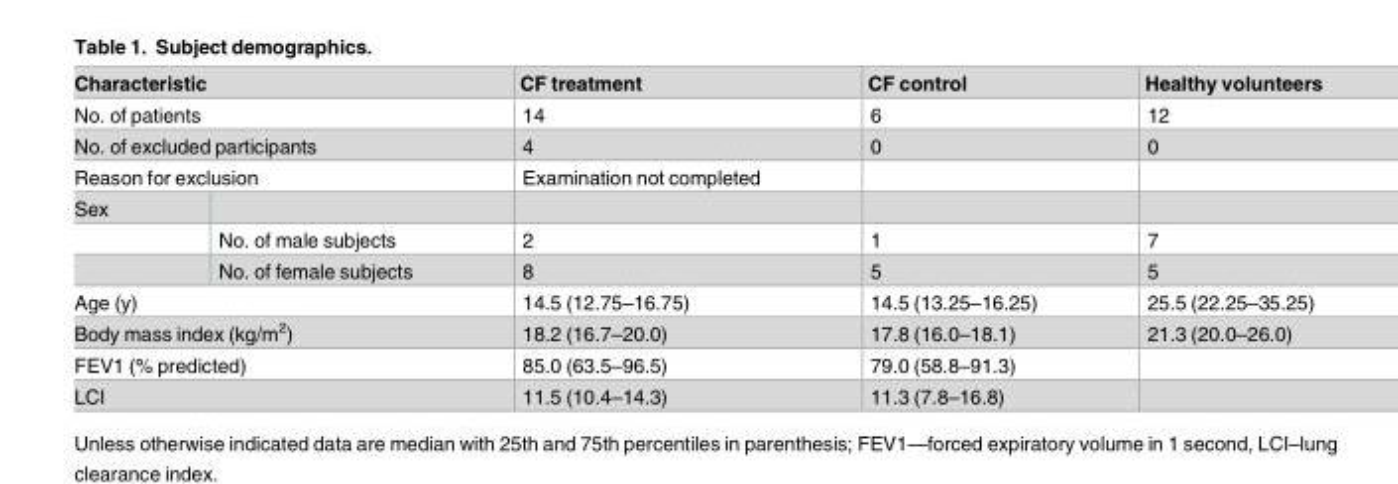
<table><thead><tr><td colspan="2">Characteristic</td><td>CF treatment</td><td>CF control</td><td>Healthy volunteers</td></tr></thead><tbody><tr><td colspan="2">No. of patients</td><td>14</td><td>6</td><td>12</td></tr><tr><td colspan="2">No. of excluded participants</td><td>4</td><td>0</td><td>0</td></tr><tr><td colspan="2">Reason for exclusion</td><td>Examination not completed</td><td></td><td></td></tr><tr><td colspan="5">Sex</td></tr><tr><td></td><td>No. of male subjects</td><td>2</td><td>1</td><td>7</td></tr><tr><td></td><td>No. of female subjects</td><td>8</td><td>5</td><td>5</td></tr><tr><td colspan="2">Age (y)</td><td>14.5 (12.75–16.75)</td><td>14.5 (13.25–16.25)</td><td>25.5 (22.25–35.25)</td></tr><tr><td colspan="2">Body mass index (kg/m<sup>2</sup>)</td><td>18.2 (16.7–20.0)</td><td>17.8 (16.0–18.1)</td><td>21.3 (20.0–26.0)</td></tr><tr><td colspan="2">FEV1 (% predicted)</td><td>85.0 (63.5–96.5)</td><td>79.0 (58.8–91.3)</td><td></td></tr><tr><td colspan="2">LCI</td><td>11.5 (10.4–14.3)</td><td>11.3 (7.8–16.8)</td><td></td></tr></tbody></table>